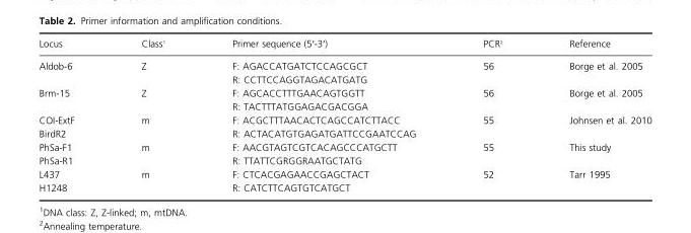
<table><thead><tr><td>Locus</td><td>Class<sup>1</sup></td><td>Primer sequence (5′-3′)</td><td>PCR<sup>2</sup></td><td>Reference</td></tr></thead><tbody><tr><td rowspan="2">Aldob-6</td><td>Z</td><td>F: AGACCATGATCTCCAGCGCT</td><td>56</td><td>Borge et al. 2005</td></tr><tr><td></td><td>R: CCTTCCAGGTAGACATGATG</td><td></td><td></td></tr><tr><td rowspan="2">Brm-15</td><td>Z</td><td>F: AGCACCTTTGAACAGTGGTT</td><td>56</td><td>Borge et al. 2005</td></tr><tr><td></td><td>R: TACTTTATGGAGACGACGGA</td><td></td><td></td></tr><tr><td>COI-ExtF</td><td>m</td><td>F: ACGCTTTAACACTCAGCCATCTTACC</td><td>55</td><td>Johnsen et al. 2010</td></tr><tr><td>BirdR2</td><td></td><td>R: ACTACATGTGAGATGATTCCGAATCCAG</td><td></td><td></td></tr><tr><td>PhSa-F1</td><td>m</td><td>F: AACGTAGTCGTCACAGCCCATGCTT</td><td>55</td><td>This study</td></tr><tr><td>PhSa-R1</td><td></td><td>R: TTATTCGRGGRAATGCTATG</td><td></td><td></td></tr><tr><td>L437</td><td>m</td><td>F: CTCACGAGAACCGAGCTACT</td><td>52</td><td>Tarr 1995</td></tr><tr><td>H1248</td><td></td><td>R: CATCTTCAGTGTCATGCT</td><td></td><td></td></tr></tbody></table>